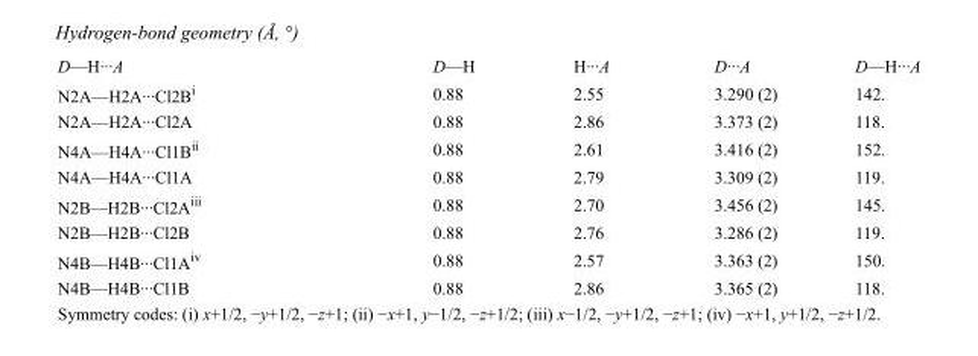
<table><tbody><tr><td>D—H···A</td><td>D—H</td><td>H···A</td><td>D···A</td><td>D—H···A</td></tr><tr><td>N2A—H2A···Cl2B<sup>i</sup></td><td>0.88</td><td>2.55</td><td>3.290 (2)</td><td>142.</td></tr><tr><td>N2A—H2A···Cl2A</td><td>0.88</td><td>2.86</td><td>3.373 (2)</td><td>118.</td></tr><tr><td>N4A—H4A···Cl1B<sup>ii</sup></td><td>0.88</td><td>2.61</td><td>3.416 (2)</td><td>152.</td></tr><tr><td>N4A—H4A···Cl1A</td><td>0.88</td><td>2.79</td><td>3.309 (2)</td><td>119.</td></tr><tr><td>N2B—H2B···Cl2A<sup>iii</sup></td><td>0.88</td><td>2.70</td><td>3.456 (2)</td><td>145.</td></tr><tr><td>N2B—H2B···Cl2B</td><td>0.88</td><td>2.76</td><td>3.286 (2)</td><td>119.</td></tr><tr><td>N4B—H4B···Cl1A<sup>iv</sup></td><td>0.88</td><td>2.57</td><td>3.363 (2)</td><td>150.</td></tr><tr><td>N4B—H4B···Cl1B</td><td>0.88</td><td>2.86</td><td>3.365 (2)</td><td>118.</td></tr></tbody></table>